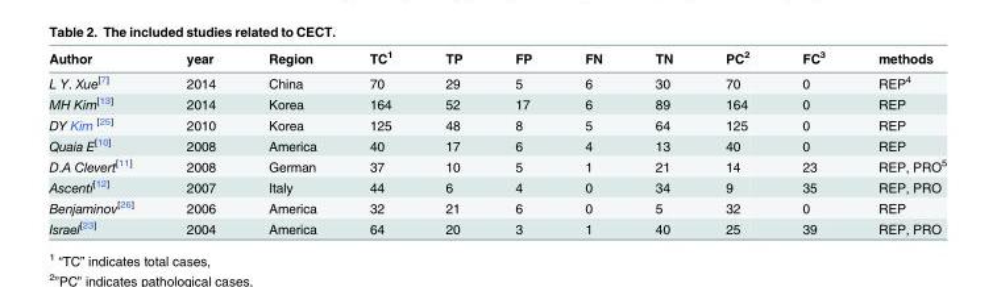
<table><thead><tr><td>Author</td><td>year</td><td>Region</td><td>TC<sup>1</sup></td><td>TP</td><td>FP</td><td>FN</td><td>TN</td><td>PC<sup>2</sup></td><td>FC<sup>3</sup></td><td>methods</td></tr></thead><tbody><tr><td>L Y. Xue<sup>[7]</sup></td><td>2014</td><td>China</td><td>70</td><td>29</td><td>5</td><td>6</td><td>30</td><td>70</td><td>0</td><td>REP<sup>4</sup></td></tr><tr><td>MH Kim<sup>[13]</sup></td><td>2014</td><td>Korea</td><td>164</td><td>52</td><td>17</td><td>6</td><td>89</td><td>164</td><td>0</td><td>REP</td></tr><tr><td>DY Kim <sup>[25]</sup></td><td>2010</td><td>Korea</td><td>125</td><td>48</td><td>8</td><td>5</td><td>64</td><td>125</td><td>0</td><td>REP</td></tr><tr><td>Quaia E<sup>[10]</sup></td><td>2008</td><td>America</td><td>40</td><td>17</td><td>6</td><td>4</td><td>13</td><td>40</td><td>0</td><td>REP</td></tr><tr><td>D.A Clevert<sup>[11]</sup></td><td>2008</td><td>German</td><td>37</td><td>10</td><td>5</td><td>1</td><td>21</td><td>14</td><td>23</td><td>REP, PRO<sup>5</sup></td></tr><tr><td>Ascenti<sup>[12]</sup></td><td>2007</td><td>Italy</td><td>44</td><td>6</td><td>4</td><td>0</td><td>34</td><td>9</td><td>35</td><td>REP, PRO</td></tr><tr><td>Benjaminov<sup>[26]</sup></td><td>2006</td><td>America</td><td>32</td><td>21</td><td>6</td><td>0</td><td>5</td><td>32</td><td>0</td><td>REP</td></tr><tr><td>Israel<sup>[23]</sup></td><td>2004</td><td>America</td><td>64</td><td>20</td><td>3</td><td>1</td><td>40</td><td>25</td><td>39</td><td>REP, PRO</td></tr></tbody></table>